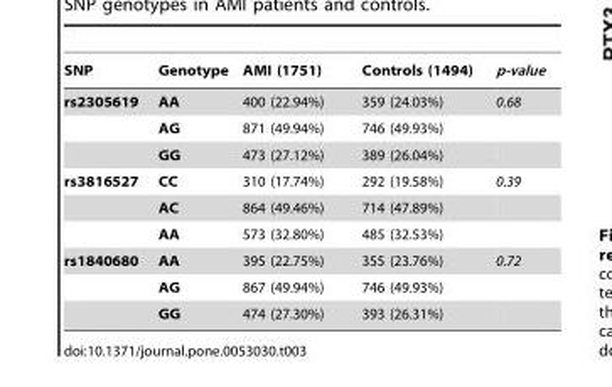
<table><thead><tr><td>SNP</td><td>Genotype</td><td>AMI (1751)</td><td>Controls (1494)</td><td>p-value</td></tr></thead><tbody><tr><td rowspan="3">rs2305619</td><td>AA</td><td>400 (22.94%)</td><td>359 (24.03%)</td><td>0.68</td></tr><tr><td>AG</td><td>871 (49.94%)</td><td>746 (49.93%)</td><td></td></tr><tr><td>GG</td><td>473 (27.12%)</td><td>389 (26.04%)</td><td></td></tr><tr><td rowspan="3">rs3816527</td><td>CC</td><td>310 (17.74%)</td><td>292 (19.58%)</td><td>0.39</td></tr><tr><td>AC</td><td>864 (49.46%)</td><td>714 (47.89%)</td><td></td></tr><tr><td>AA</td><td>573 (32.80%)</td><td>485 (32.53%)</td><td></td></tr><tr><td rowspan="3">rs1840680</td><td>AA</td><td>395 (22.75%)</td><td>355 (23.76%)</td><td>0.72</td></tr><tr><td>AG</td><td>867 (49.94%)</td><td>746 (49.93%)</td><td></td></tr><tr><td>GG</td><td>474 (27.30%)</td><td>393 (26.31%)</td><td></td></tr></tbody></table>